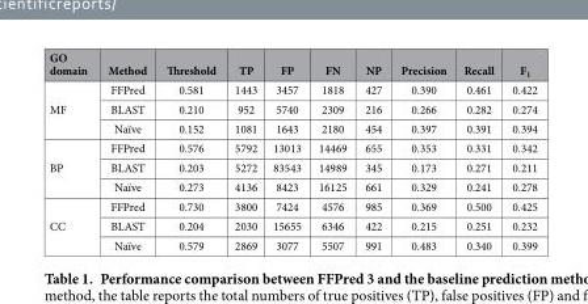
<table><thead><tr><td>GO domain</td><td>Method</td><td>Threshold</td><td>TP</td><td>FP</td><td>FN</td><td>NP</td><td>Precision</td><td>Recall</td><td>F<sub>1</sub></td></tr></thead><tbody><tr><td rowspan="3">MF</td><td>FFPred</td><td>0.581</td><td>1443</td><td>3457</td><td>1818</td><td>427</td><td>0.390</td><td>0.461</td><td>0.422</td></tr><tr><td>BLAST</td><td>0.210</td><td>952</td><td>5740</td><td>2309</td><td>216</td><td>0.266</td><td>0.282</td><td>0.274</td></tr><tr><td>Naïve</td><td>0.152</td><td>1081</td><td>1643</td><td>2180</td><td>454</td><td>0.397</td><td>0.391</td><td>0.394</td></tr><tr><td rowspan="3">BP</td><td>FFPred</td><td>0.576</td><td>5792</td><td>13013</td><td>14469</td><td>655</td><td>0.353</td><td>0.331</td><td>0.342</td></tr><tr><td>BLAST</td><td>0.203</td><td>5272</td><td>83543</td><td>14989</td><td>345</td><td>0.173</td><td>0.271</td><td>0.211</td></tr><tr><td>Naïve</td><td>0.273</td><td>4136</td><td>8423</td><td>16125</td><td>661</td><td>0.329</td><td>0.241</td><td>0.278</td></tr><tr><td rowspan="3">CC</td><td>FFPred</td><td>0.730</td><td>3800</td><td>7424</td><td>4576</td><td>985</td><td>0.369</td><td>0.500</td><td>0.425</td></tr><tr><td>BLAST</td><td>0.204</td><td>2030</td><td>15655</td><td>6346</td><td>422</td><td>0.215</td><td>0.251</td><td>0.232</td></tr><tr><td>Naïve</td><td>0.579</td><td>2869</td><td>3077</td><td>5507</td><td>991</td><td>0.483</td><td>0.340</td><td>0.399</td></tr></tbody></table>